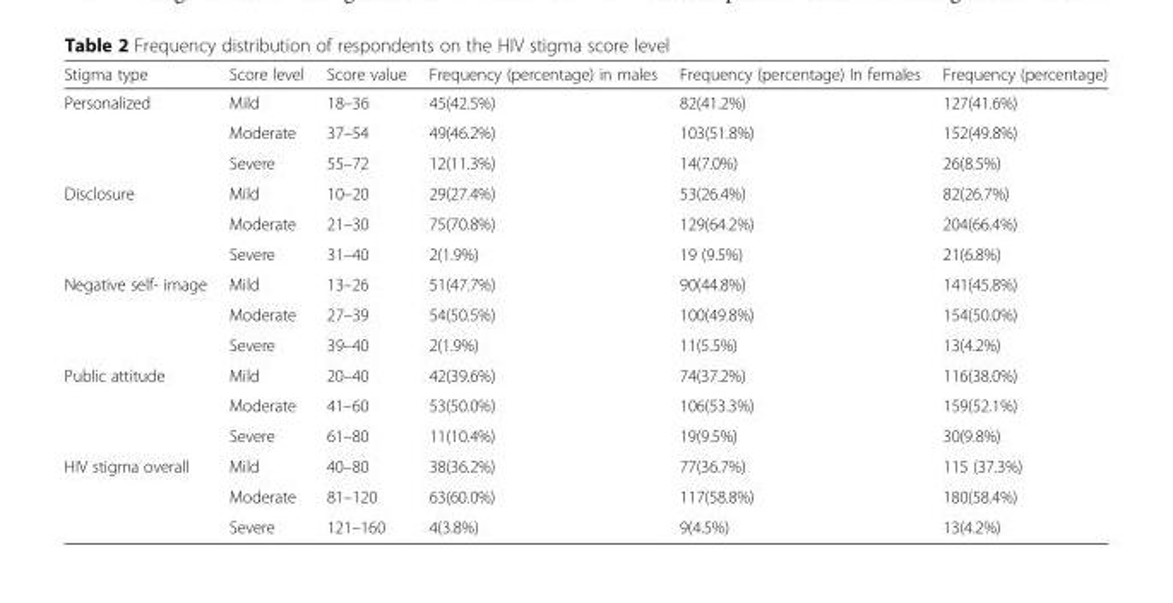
<table><thead><tr><td>Stigma type</td><td>Score level</td><td>Score value</td><td>Frequency (percentage) in males</td><td>Frequency (percentage) In females</td><td>Frequency (percentage)</td></tr></thead><tbody><tr><td rowspan="3">Personalized</td><td>Mild</td><td>18–36</td><td>45(42.5%)</td><td>82(41.2%)</td><td>127(41.6%)</td></tr><tr><td>Moderate</td><td>37–54</td><td>49(46.2%)</td><td>103(51.8%)</td><td>152(49.8%)</td></tr><tr><td>Severe</td><td>55–72</td><td>12(11.3%)</td><td>14(7.0%)</td><td>26(8.5%)</td></tr><tr><td rowspan="3">Disclosure</td><td>Mild</td><td>10–20</td><td>29(27.4%)</td><td>53(26.4%)</td><td>82(26.7%)</td></tr><tr><td>Moderate</td><td>21–30</td><td>75(70.8%)</td><td>129(64.2%)</td><td>204(66.4%)</td></tr><tr><td>Severe</td><td>31–40</td><td>2(1.9%)</td><td>19 (9.5%)</td><td>21(6.8%)</td></tr><tr><td rowspan="3">Negative self- image</td><td>Mild</td><td>13–26</td><td>51(47.7%)</td><td>90(44.8%)</td><td>141(45.8%)</td></tr><tr><td>Moderate</td><td>27–39</td><td>54(50.5%)</td><td>100(49.8%)</td><td>154(50.0%)</td></tr><tr><td>Severe</td><td>39–40</td><td>2(1.9%)</td><td>11(5.5%)</td><td>13(4.2%)</td></tr><tr><td rowspan="3">Public attitude</td><td>Mild</td><td>20–40</td><td>42(39.6%)</td><td>74(37.2%)</td><td>116(38.0%)</td></tr><tr><td>Moderate</td><td>41–60</td><td>53(50.0%)</td><td>106(53.3%)</td><td>159(52.1%)</td></tr><tr><td>Severe</td><td>61–80</td><td>11(10.4%)</td><td>19(9.5%)</td><td>30(9.8%)</td></tr><tr><td rowspan="3">HIV stigma overall</td><td>Mild</td><td>40–80</td><td>38(36.2%)</td><td>77(36.7%)</td><td>115 (37.3%)</td></tr><tr><td>Moderate</td><td>81–120</td><td>63(60.0%)</td><td>117(58.8%)</td><td>180(58.4%)</td></tr><tr><td>Severe</td><td>121–160</td><td>4(3.8%)</td><td>9(4.5%)</td><td>13(4.2%)</td></tr></tbody></table>